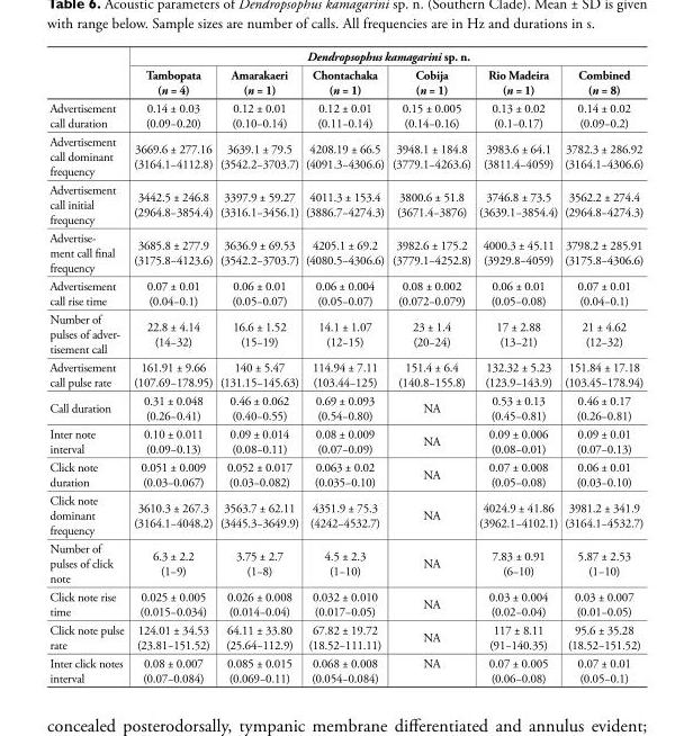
<table><thead><tr><td rowspan="2"></td><td colspan="6">Dendropsophus kamagarini sp. n.</td></tr><tr><td>Tambopata (n = 4)</td><td>Amarakaeri (n = 1)</td><td>Chontachaka (n = 1)</td><td>Cobija (n = 1)</td><td>Rio Madeira (n = 1)</td><td>Combined (n = 8)</td></tr></thead><tbody><tr><td>Advertisement call duration</td><td>0.14 ± 0.03 (0.09−0.20)</td><td>0.12 ± 0.01 (0.10−0.14)</td><td>0.12 ± 0.01 (0.11−0.14)</td><td>0.15 ± 0.005 (0.14−0.16)</td><td>0.13 ± 0.02 (0.1−0.17)</td><td>0.14 ± 0.02 (0.09−0.2)</td></tr><tr><td>Advertisement call dominant frequency</td><td>3669.6 ± 277.16 (3164.1−4112.8)</td><td>3639.1 ± 79.5 (3542.2−3703.7)</td><td>4208.19 ± 66.5 (4091.3−4306.6)</td><td>3948.1 ± 184.8 (3779.1−4263.6)</td><td>3983.6 ± 64.1 (3811.4−4059)</td><td>3782.3 ± 286.92 (3164.1−4306.6)</td></tr><tr><td>Advertisement call initial frequency</td><td>3442.5 ± 246.8 (2964.8−3854.4)</td><td>3397.9 ± 59.27 (3316.1−3456.1)</td><td>4011.3 ± 153.4 (3886.7−4274.3)</td><td>3800.6 ± 51.8 (3671.4−3876)</td><td>3746.8 ± 73.5 (3639.1−3854.4)</td><td>3562.2 ± 274.4 (2964.8−4274.3)</td></tr><tr><td>Advertise- ment call final frequency</td><td>3685.8 ± 277.9 (3175.8−4123.6)</td><td>3636.9 ± 69.53 (3542.2−3703.7)</td><td>4205.1 ± 69.2 (4080.5−4306.6)</td><td>3982.6 ± 175.2 (3779.1−4252.8)</td><td>4000.3 ± 45.11 (3929.8−4059)</td><td>3798.2 ± 285.91 (3175.8−4306.6)</td></tr><tr><td>Advertisement call rise time</td><td>0.07 ± 0.01 (0.04−0.1)</td><td>0.06 ± 0.01 (0.05−0.07)</td><td>0.06 ± 0.004 (0.05−0.07)</td><td>0.08 ± 0.002 (0.072−0.079)</td><td>0.06 ± 0.01 (0.05−0.08)</td><td>0.07 ± 0.01 (0.04−0.1)</td></tr><tr><td>Number of pulses of adver- tisement call</td><td>22.8 ± 4.14 (14−32)</td><td>16.6 ± 1.52 (15−19)</td><td>14.1 ± 1.07 (12−15)</td><td>23 ± 1.4 (20−24)</td><td>17 ± 2.88 (13−21)</td><td>21 ± 4.62 (12−32)</td></tr><tr><td>Advertisement call pulse rate</td><td>161.91 ± 9.66 (107.69−178.95)</td><td>140 ± 5.47 (131.15−145.63)</td><td>114.94 ± 7.11 (103.44−125)</td><td>151.4 ± 6.4 (140.8−155.8)</td><td>132.32 ± 5.23 (123.9−143.9)</td><td>151.84 ± 17.18 (103.45−178.94)</td></tr><tr><td>Call duration</td><td>0.31 ± 0.048 (0.26−0.41)</td><td>0.46 ± 0.062 (0.40−0.55)</td><td>0.69 ± 0.093 (0.54−0.80)</td><td>NA</td><td>0.53 ± 0.13 (0.45−0.81)</td><td>0.46 ± 0.17 (0.26−0.81)</td></tr><tr><td>Inter note interval</td><td>0.10 ± 0.011 (0.09−0.13)</td><td>0.09 ± 0.014 (0.08−0.11)</td><td>0.08 ± 0.009 (0.07−0.09)</td><td>NA</td><td>0.09 ± 0.006 (0.08−0.01)</td><td>0.09 ± 0.01 (0.07−0.13)</td></tr><tr><td>Click note duration</td><td>0.051 ± 0.009 (0.03−0.067)</td><td>0.052 ± 0.017 (0.03−0.082)</td><td>0.063 ± 0.02 (0.035−0.10)</td><td>NA</td><td>0.07 ± 0.008 (0.05−0.08)</td><td>0.06 ± 0.01 (0.03−0.10)</td></tr><tr><td>Click note dominant frequency</td><td>3610.3 ± 267.3 (3164.1−4048.2)</td><td>3563.7 ± 62.11 (3445.3−3649.9)</td><td>4351.9 ± 75.3 (4242−4532.7)</td><td>NA</td><td>4024.9 ± 41.86 (3962.1−4102.1)</td><td>3981.2 ± 341.9 (3164.1−4532.7)</td></tr><tr><td>Number of pulses of click note</td><td>6.3 ± 2.2 (1−9)</td><td>3.75 ± 2.7 (1−8)</td><td>4.5 ± 2.3 (1−10)</td><td>NA</td><td>7.83 ± 0.91 (6−10)</td><td>5.87 ± 2.53 (1−10)</td></tr><tr><td>Click note rise time</td><td>0.025 ± 0.005 (0.015−0.034)</td><td>0.026 ± 0.008 (0.014−0.04)</td><td>0.032 ± 0.010 (0.017−0.05)</td><td>NA</td><td>0.03 ± 0.004 (0.02−0.04)</td><td>0.03 ± 0.007 (0.01−0.05)</td></tr><tr><td>Click note pulse rate</td><td>124.01 ± 34.53 (23.81−151.52)</td><td>64.11 ± 33.80 (25.64−112.9)</td><td>67.82 ± 19.72 (18.52−111.11)</td><td>NA</td><td>117 ± 8.11 (91−140.35)</td><td>95.6 ± 35.28 (18.52−151.52)</td></tr><tr><td>Inter click notes interval</td><td>0.08 ± 0.007 (0.07−0.084)</td><td>0.085 ± 0.015 (0.069−0.11)</td><td>0.068 ± 0.008 (0.054−0.084)</td><td>NA</td><td>0.07 ± 0.005 (0.06−0.08)</td><td>0.07 ± 0.01 (0.05−0.1)</td></tr></tbody></table>